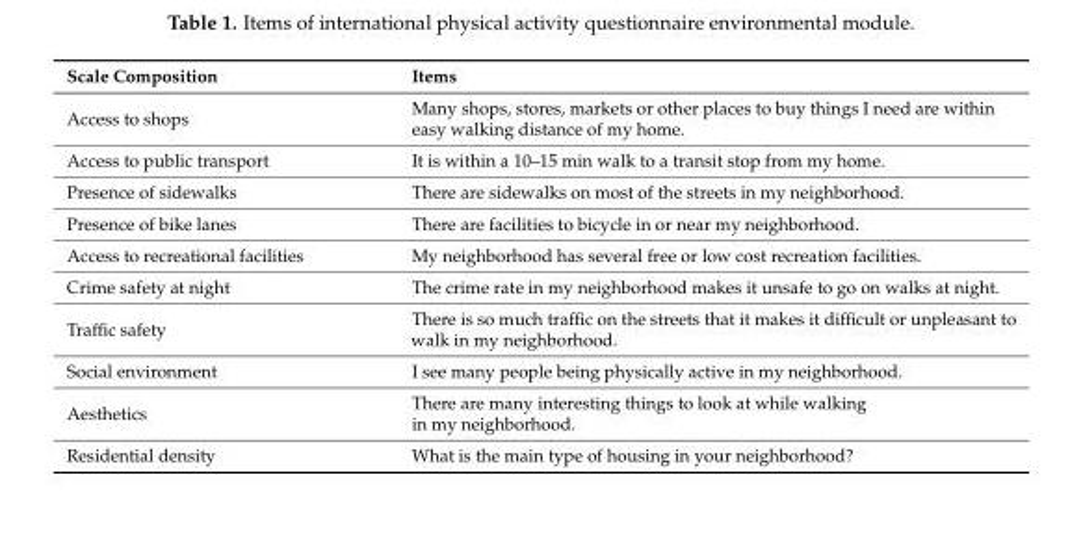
<table><thead><tr><td>Scale Composition</td><td>Items</td></tr></thead><tbody><tr><td>Access to shops</td><td>Many shops, stores, markets or other places to buy things I need are within easy walking distance of my home.</td></tr><tr><td>Access to public transport</td><td>It is within a 10–15 min walk to a transit stop from my home.</td></tr><tr><td>Presence of sidewalks</td><td>There are sidewalks on most of the streets in my neighborhood.</td></tr><tr><td>Presence of bike lanes</td><td>There are facilities to bicycle in or near my neighborhood.</td></tr><tr><td>Access to recreational facilities</td><td>My neighborhood has several free or low cost recreation facilities.</td></tr><tr><td>Crime safety at night</td><td>The crime rate in my neighborhood makes it unsafe to go on walks at night.</td></tr><tr><td>Traffic safety</td><td>There is so much traffic on the streets that it makes it difficult or unpleasant to walk in my neighborhood.</td></tr><tr><td>Social environment</td><td>I see many people being physically active in my neighborhood.</td></tr><tr><td>Aesthetics</td><td>There are many interesting things to look at while walking in my neighborhood.</td></tr><tr><td>Residential density</td><td>What is the main type of housing in your neighborhood?</td></tr></tbody></table>